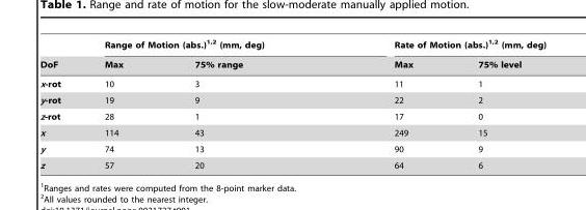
<table><thead><tr><td rowspan="2">DoF</td><td colspan="2">Range of Motion (abs.)<sup>1,2</sup> (mm, deg)</td><td colspan="2">Rate of Motion (abs.)<sup>1,2</sup> (mm, deg)</td></tr><tr><td>Max</td><td>75% range</td><td>Max</td><td>75% level</td></tr></thead><tbody><tr><td>x-rot</td><td>10</td><td>3</td><td>11</td><td>1</td></tr><tr><td>y-rot</td><td>19</td><td>9</td><td>22</td><td>2</td></tr><tr><td>z-rot</td><td>28</td><td>1</td><td>17</td><td>0</td></tr><tr><td>x</td><td>114</td><td>43</td><td>249</td><td>15</td></tr><tr><td>y</td><td>74</td><td>13</td><td>90</td><td>9</td></tr><tr><td>z</td><td>57</td><td>20</td><td>64</td><td>6</td></tr></tbody></table>